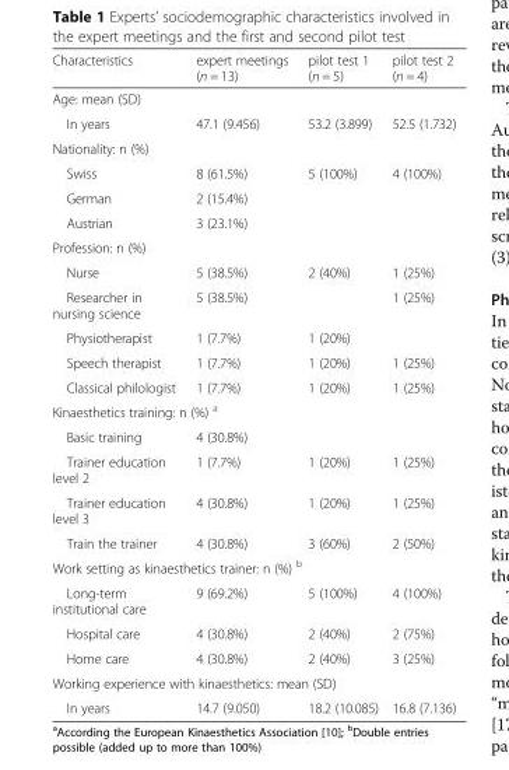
<table><thead><tr><td>Characteristics</td><td>expert meetings (n = 13)</td><td>pilot test 1 (n = 5)</td><td>pilot test 2 (n = 4)</td></tr></thead><tbody><tr><td colspan="4">Age: mean (SD)</td></tr><tr><td>In years</td><td>47.1 (9.456)</td><td>53.2 (3.899)</td><td>52.5 (1.732)</td></tr><tr><td colspan="4">Nationality: n (%)</td></tr><tr><td>Swiss</td><td>8 (61.5%)</td><td>5 (100%)</td><td>4 (100%)</td></tr><tr><td>German</td><td>2 (15.4%)</td><td></td><td></td></tr><tr><td>Austrian</td><td>3 (23.1%)</td><td></td><td></td></tr><tr><td colspan="4">Profession: n (%)</td></tr><tr><td>Nurse</td><td>5 (38.5%)</td><td>2 (40%)</td><td>1 (25%)</td></tr><tr><td>Researcher in nursing science</td><td>5 (38.5%)</td><td></td><td>1 (25%)</td></tr><tr><td>Physiotherapist</td><td>1 (7.7%)</td><td>1 (20%)</td><td></td></tr><tr><td>Speech therapist</td><td>1 (7.7%)</td><td>1 (20%)</td><td>1 (25%)</td></tr><tr><td>Classical philologist</td><td>1 (7.7%)</td><td>1 (20%)</td><td>1 (25%)</td></tr><tr><td colspan="4">Kinaesthetics training: n (%) <sup>a</sup></td></tr><tr><td>Basic training</td><td>4 (30.8%)</td><td></td><td></td></tr><tr><td>Trainer education level 2</td><td>1 (7.7%)</td><td>1 (20%)</td><td>1 (25%)</td></tr><tr><td>Trainer education level 3</td><td>4 (30.8%)</td><td>1 (20%)</td><td>1 (25%)</td></tr><tr><td>Train the trainer</td><td>4 (30.8%)</td><td>3 (60%)</td><td>2 (50%)</td></tr><tr><td colspan="4">Work setting as kinaesthetics trainer: n (%) <sup>b</sup></td></tr><tr><td>Long-term institutional care</td><td>9 (69.2%)</td><td>5 (100%)</td><td>4 (100%)</td></tr><tr><td>Hospital care</td><td>4 (30.8%)</td><td>2 (40%)</td><td>2 (75%)</td></tr><tr><td>Home care</td><td>4 (30.8%)</td><td>2 (40%)</td><td>3 (25%)</td></tr><tr><td colspan="4">Working experience with kinaesthetics: mean (SD)</td></tr><tr><td>In years</td><td>14.7 (9.050)</td><td>18.2 (10.085)</td><td>16.8 (7.136)</td></tr></tbody></table>